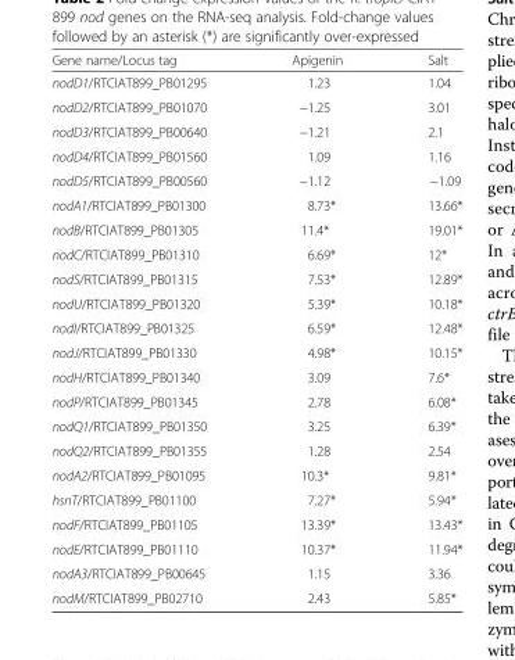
<table><thead><tr><td>Gene name/Locus tag</td><td>Apigenin</td><td>Salt</td></tr></thead><tbody><tr><td>nodD1/RTCIAT899_PB01295</td><td>1.23</td><td>1.04</td></tr><tr><td>nodD2/RTCIAT899_PB01070</td><td>−1.25</td><td>3.01</td></tr><tr><td>nodD3/RTCIAT899_PB00640</td><td>−1.21</td><td>2.1</td></tr><tr><td>nodD4/RTCIAT899_PB01560</td><td>1.09</td><td>1.16</td></tr><tr><td>nodD5/RTCIAT899_PB00560</td><td>−1.12</td><td>−1.09</td></tr><tr><td>nodA1/RTCIAT899_PB01300</td><td>8.73*</td><td>13.66*</td></tr><tr><td>nodB/RTCIAT899_PB01305</td><td>11.4*</td><td>19.01*</td></tr><tr><td>nodC/RTCIAT899_PB01310</td><td>6.69*</td><td>12*</td></tr><tr><td>nodS/RTCIAT899_PB01315</td><td>7.53*</td><td>12.89*</td></tr><tr><td>nodU/RTCIAT899_PB01320</td><td>5.39*</td><td>10.18*</td></tr><tr><td>nodI/RTCIAT899_PB01325</td><td>6.59*</td><td>12.48*</td></tr><tr><td>nodJ/RTCIAT899_PB01330</td><td>4.98*</td><td>10.15*</td></tr><tr><td>nodH/RTCIAT899_PB01340</td><td>3.09</td><td>7.6*</td></tr><tr><td>nodP/RTCIAT899_PB01345</td><td>2.78</td><td>6.08*</td></tr><tr><td>nodQ1/RTCIAT899_PB01350</td><td>3.25</td><td>6.39*</td></tr><tr><td>nodQ2/RTCIAT899_PB01355</td><td>1.28</td><td>2.54</td></tr><tr><td>nodA2/RTCIAT899_PB01095</td><td>10.3*</td><td>9.81*</td></tr><tr><td>hsnT/RTCIAT899_PB01100</td><td>7.27*</td><td>5.94*</td></tr><tr><td>nodF/RTCIAT899_PB01105</td><td>13.39*</td><td>13.43*</td></tr><tr><td>nodE/RTCIAT899_PB01110</td><td>10.37*</td><td>11.94*</td></tr><tr><td>nodA3/RTCIAT899_PB00645</td><td>1.15</td><td>3.36</td></tr><tr><td>nodM/RTCIAT899_PB02710</td><td>2.43</td><td>5.85*</td></tr></tbody></table>